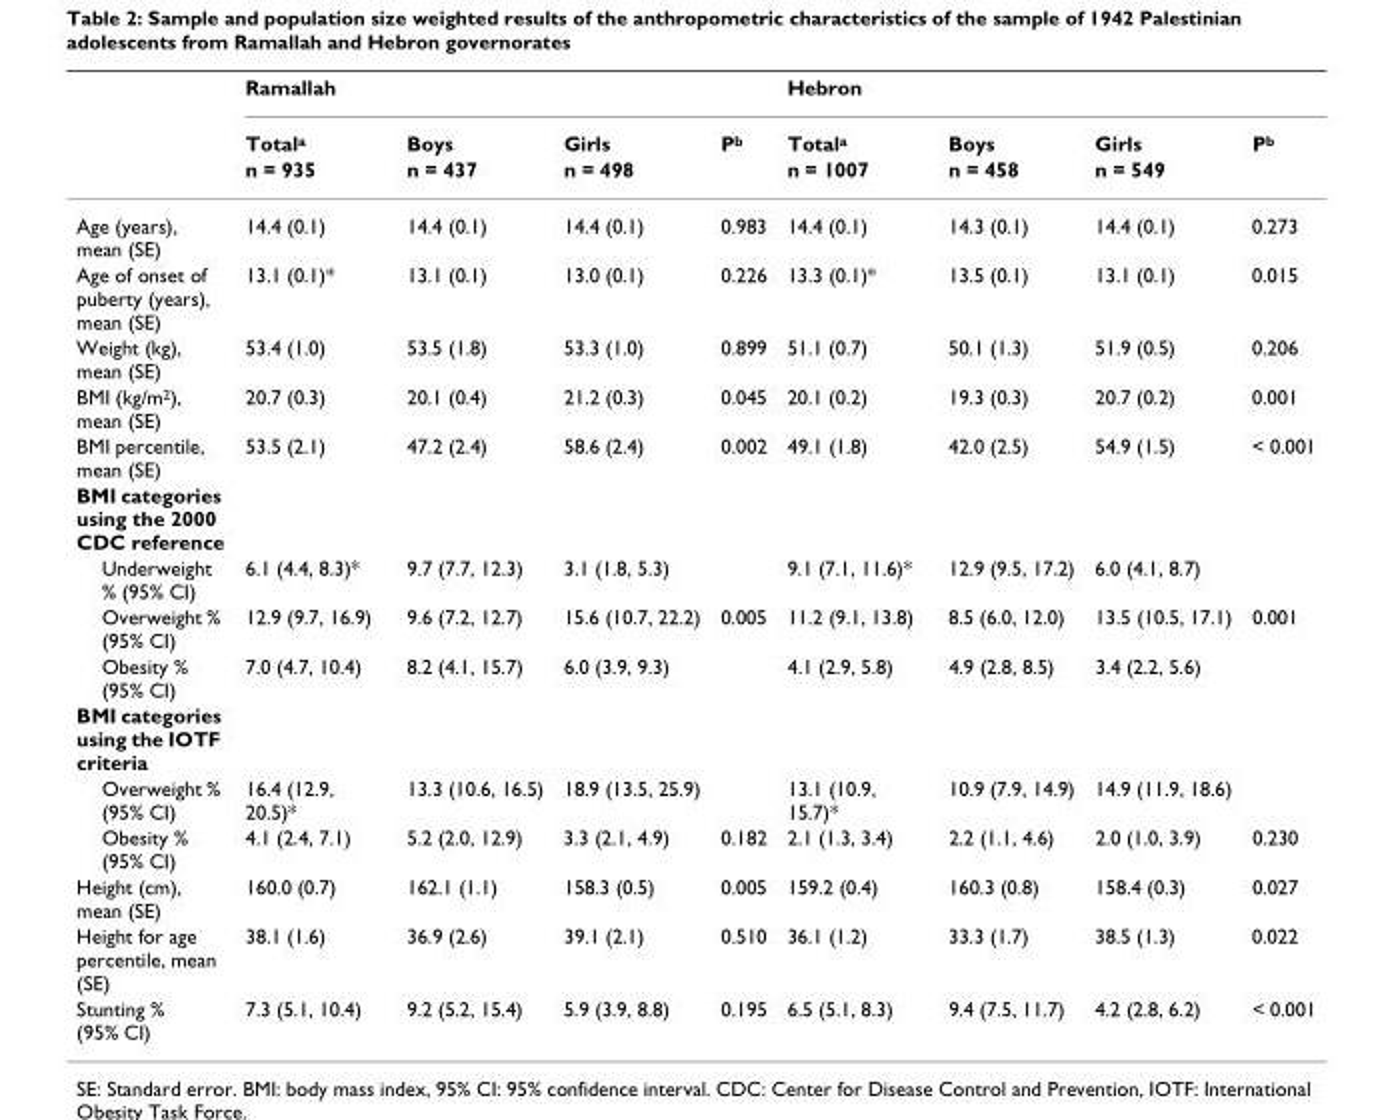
<table><thead><tr><td rowspan="3"></td><td rowspan="3">Ramallah Total<sup>a</sup> n = 935</td><td rowspan="3">Boys n = 437</td><td rowspan="3">Girls n = 498</td><td rowspan="3">P<sup>b</sup></td><td rowspan="3">Hebron Total<sup>a</sup> n = 1007</td><td rowspan="3">Boys n = 458</td><td rowspan="3">Girls n = 549</td><td rowspan="3">P<sup>b</sup></td></tr><tr></tr><tr></tr></thead><tbody><tr><td>Age (years), mean (SE)</td><td>14.4 (0.1)</td><td>14.4 (0.1)</td><td>14.4 (0.1)</td><td>0.983</td><td>14.4 (0.1)</td><td>14.3 (0.1)</td><td>14.4 (0.1)</td><td>0.273</td></tr><tr><td>Age of onset of puberty (years), mean (SE)</td><td>13.1 (0.1)*</td><td>13.1 (0.1)</td><td>13.0 (0.1)</td><td>0.226</td><td>13.3 (0.1)*</td><td>13.5 (0.1)</td><td>13.1 (0.1)</td><td>0.015</td></tr><tr><td>Weight (kg), mean (SE)</td><td>53.4 (1.0)</td><td>53.5 (1.8)</td><td>53.3 (1.0)</td><td>0.899</td><td>51.1 (0.7)</td><td>50.1 (1.3)</td><td>51.9 (0.5)</td><td>0.206</td></tr><tr><td>BMI (kg/m<sup>2</sup>), mean (SE)</td><td>20.7 (0.3)</td><td>20.1 (0.4)</td><td>21.2 (0.3)</td><td>0.045</td><td>20.1 (0.2)</td><td>19.3 (0.3)</td><td>20.7 (0.2)</td><td>0.001</td></tr><tr><td>BMI percentile, mean (SE)</td><td>53.5 (2.1)</td><td>47.2 (2.4)</td><td>58.6 (2.4)</td><td>0.002</td><td>49.1 (1.8)</td><td>42.0 (2.5)</td><td>54.9 (1.5)</td><td>&lt; 0.001</td></tr><tr><td colspan="9">BMI categories using the 2000 CDC reference</td></tr><tr><td>Underweight % (95% CI)</td><td>6.1 (4.4, 8.3)*</td><td>9.7 (7.7, 12.3)</td><td>3.1 (1.8, 5.3)</td><td></td><td>9.1 (7.1, 11.6)*</td><td>12.9 (9.5, 17.2)</td><td>6.0 (4.1, 8.7)</td><td></td></tr><tr><td>Overweight % (95% CI)</td><td>12.9 (9.7, 16.9)</td><td>9.6 (7.2, 12.7)</td><td>15.6 (10.7, 22.2)</td><td>0.005</td><td>11.2 (9.1, 13.8)</td><td>8.5 (6.0, 12.0)</td><td>13.5 (10.5, 17.1)</td><td>0.001</td></tr><tr><td>Obesity % (95% CI)</td><td>7.0 (4.7, 10.4)</td><td>8.2 (4.1, 15.7)</td><td>6.0 (3.9, 9.3)</td><td></td><td>4.1 (2.9, 5.8)</td><td>4.9 (2.8, 8.5)</td><td>3.4 (2.2, 5.6)</td><td></td></tr><tr><td colspan="9">BMI categories using the IOTF criteria</td></tr><tr><td>Overweight % (95% CI)</td><td>16.4 (12.9, 20.5)*</td><td>13.3 (10.6, 16.5)</td><td>18.9 (13.5, 25.9)</td><td></td><td>13.1 (10.9, 15.7)*</td><td>10.9 (7.9, 14.9)</td><td>14.9 (11.9, 18.6)</td><td></td></tr><tr><td>Obesity % (95% CI)</td><td>4.1 (2.4, 7.1)</td><td>5.2 (2.0, 12.9)</td><td>3.3 (2.1, 4.9)</td><td>0.182</td><td>2.1 (1.3, 3.4)</td><td>2.2 (1.1, 4.6)</td><td>2.0 (1.0, 3.9)</td><td>0.230</td></tr><tr><td>Height (cm), mean (SE)</td><td>160.0 (0.7)</td><td>162.1 (1.1)</td><td>158.3 (0.5)</td><td>0.005</td><td>159.2 (0.4)</td><td>160.3 (0.8)</td><td>158.4 (0.3)</td><td>0.027</td></tr><tr><td>Height for age percentile, mean (SE)</td><td>38.1 (1.6)</td><td>36.9 (2.6)</td><td>39.1 (2.1)</td><td>0.510</td><td>36.1 (1.2)</td><td>33.3 (1.7)</td><td>38.5 (1.3)</td><td>0.022</td></tr><tr><td>Stunting % (95% CI)</td><td>7.3 (5.1, 10.4)</td><td>9.2 (5.2, 15.4)</td><td>5.9 (3.9, 8.8)</td><td>0.195</td><td>6.5 (5.1, 8.3)</td><td>9.4 (7.5, 11.7)</td><td>4.2 (2.8, 6.2)</td><td>&lt; 0.001</td></tr></tbody></table>